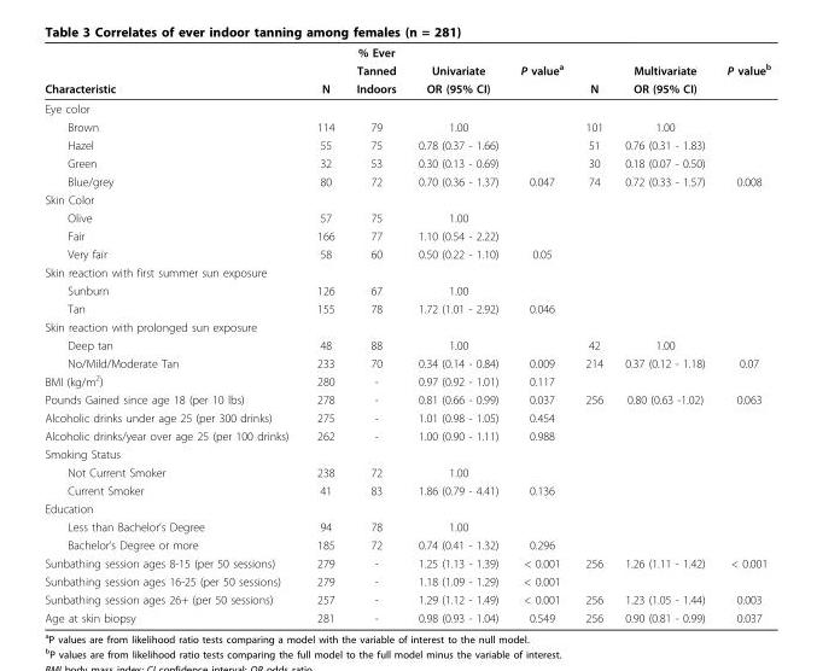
<table><thead><tr><td rowspan="3">Characteristic</td><td rowspan="3">N</td><td rowspan="3">% Ever Tanned Indoors</td><td rowspan="3">Univariate OR (95% CI)</td><td rowspan="3">P value<sup>a</sup></td><td rowspan="3">N</td><td rowspan="3">Multivariate OR (95% CI)</td><td rowspan="3">P value<sup>b</sup></td></tr><tr></tr><tr></tr></thead><tbody><tr><td colspan="8">Eye color</td></tr><tr><td>Brown</td><td>114</td><td>79</td><td>1.00</td><td></td><td>101</td><td>1.00</td><td></td></tr><tr><td>Hazel</td><td>55</td><td>75</td><td>0.78 (0.37 - 1.66)</td><td></td><td>51</td><td>0.76 (0.31 - 1.83)</td><td></td></tr><tr><td>Green</td><td>32</td><td>53</td><td>0.30 (0.13 - 0.69)</td><td></td><td>30</td><td>0.18 (0.07 - 0.50)</td><td></td></tr><tr><td>Blue/grey</td><td>80</td><td>72</td><td>0.70 (0.36 - 1.37)</td><td>0.047</td><td>74</td><td>0.72 (0.33 - 1.57)</td><td>0.008</td></tr><tr><td colspan="8">Skin Color</td></tr><tr><td>Olive</td><td>57</td><td>75</td><td>1.00</td><td></td><td></td><td></td><td></td></tr><tr><td>Fair</td><td>166</td><td>77</td><td>1.10 (0.54 - 2.22)</td><td></td><td></td><td></td><td></td></tr><tr><td>Very fair</td><td>58</td><td>60</td><td>0.50 (0.22 - 1.10)</td><td>0.05</td><td></td><td></td><td></td></tr><tr><td colspan="8">Skin reaction with first summer sun exposure</td></tr><tr><td>Sunburn</td><td>126</td><td>67</td><td>1.00</td><td></td><td></td><td></td><td></td></tr><tr><td>Tan</td><td>155</td><td>78</td><td>1.72 (1.01 - 2.92)</td><td>0.046</td><td></td><td></td><td></td></tr><tr><td colspan="8">Skin reaction with prolonged sun exposure</td></tr><tr><td>Deep tan</td><td>48</td><td>88</td><td>1.00</td><td></td><td>42</td><td>1.00</td><td></td></tr><tr><td>No/Mild/Moderate Tan</td><td>233</td><td>70</td><td>0.34 (0.14 - 0.84)</td><td>0.009</td><td>214</td><td>0.37 (0.12 - 1.18)</td><td>0.07</td></tr><tr><td>BMI (kg/m<sup>2</sup>)</td><td>280</td><td>-</td><td>0.97 (0.92 - 1.01)</td><td>0.117</td><td></td><td></td><td></td></tr><tr><td>Pounds Gained since age 18 (per 10 lbs)</td><td>278</td><td>-</td><td>0.81 (0.66 - 0.99)</td><td>0.037</td><td>256</td><td>0.80 (0.63 -1.02)</td><td>0.063</td></tr><tr><td>Alcoholic drinks under age 25 (per 300 drinks)</td><td>275</td><td>-</td><td>1.01 (0.98 - 1.05)</td><td>0.454</td><td></td><td></td><td></td></tr><tr><td>Alcoholic drinks/year over age 25 (per 100 drinks)</td><td>262</td><td>-</td><td>1.00 (0.90 - 1.11)</td><td>0.988</td><td></td><td></td><td></td></tr><tr><td colspan="8">Smoking Status</td></tr><tr><td>Not Current Smoker</td><td>238</td><td>72</td><td>1.00</td><td></td><td></td><td></td><td></td></tr><tr><td>Current Smoker</td><td>41</td><td>83</td><td>1.86 (0.79 - 4.41)</td><td>0.136</td><td></td><td></td><td></td></tr><tr><td colspan="8">Education</td></tr><tr><td>Less than Bachelor’s Degree</td><td>94</td><td>78</td><td>1.00</td><td></td><td></td><td></td><td></td></tr><tr><td>Bachelor’s Degree or more</td><td>185</td><td>72</td><td>0.74 (0.41 - 1.32)</td><td>0.296</td><td></td><td></td><td></td></tr><tr><td>Sunbathing session ages 8-15 (per 50 sessions)</td><td>279</td><td>-</td><td>1.25 (1.13 - 1.39)</td><td>&lt; 0.001</td><td>256</td><td>1.26 (1.11 - 1.42)</td><td>&lt; 0.001</td></tr><tr><td>Sunbathing session ages 16-25 (per 50 sessions)</td><td>279</td><td>-</td><td>1.18 (1.09 - 1.29)</td><td>&lt; 0.001</td><td></td><td></td><td></td></tr><tr><td>Sunbathing session ages 26+ (per 50 sessions)</td><td>257</td><td>-</td><td>1.29 (1.12 - 1.49)</td><td>&lt; 0.001</td><td>256</td><td>1.23 (1.05 - 1.44)</td><td>0.003</td></tr><tr><td>Age at skin biopsy</td><td>281</td><td>-</td><td>0.98 (0.93 - 1.04)</td><td>0.549</td><td>256</td><td>0.90 (0.81 - 0.99)</td><td>0.037</td></tr></tbody></table>